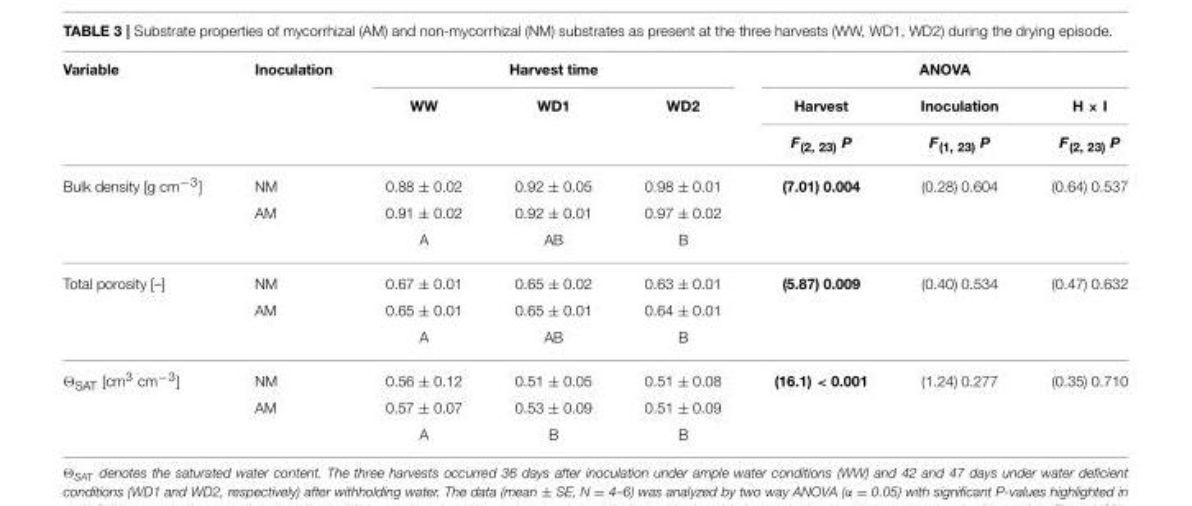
<table><thead><tr><td rowspan="3">Variable</td><td rowspan="3">Inoculation</td><td colspan="3">Harvest time</td><td colspan="3">ANOVA</td></tr><tr><td rowspan="2">WW</td><td rowspan="2">WD1</td><td rowspan="2">WD2</td><td rowspan="2">Harvest F<sub>(2, 23)</sub> P</td><td rowspan="2">Inoculation F<sub>(1, 23)</sub> P</td><td rowspan="2">H × I F<sub>(2, 23)</sub> P</td></tr><tr></tr></thead><tbody><tr><td rowspan="3">Bulk density [g cm<sup>−3</sup>]</td><td>NM</td><td>0.88 ± 0.02</td><td>0.92 ± 0.05</td><td>0.98 ± 0.01</td><td>(7.01) 0.004</td><td>(0.28) 0.604</td><td>(0.64) 0.537</td></tr><tr><td>AM</td><td>0.91 ± 0.02</td><td>0.92 ± 0.01</td><td>0.97 ± 0.02</td><td></td><td></td><td></td></tr><tr><td></td><td>A</td><td>AB</td><td>B</td><td></td><td></td><td></td></tr><tr><td rowspan="3">Total porosity [–]</td><td>NM</td><td>0.67 ± 0.01</td><td>0.65 ± 0.02</td><td>0.63 ± 0.01</td><td>(5.87) 0.009</td><td>(0.40) 0.534</td><td>(0.47) 0.632</td></tr><tr><td>AM</td><td>0.65 ± 0.01</td><td>0.65 ± 0.01</td><td>0.64 ± 0.01</td><td></td><td></td><td></td></tr><tr><td></td><td>A</td><td>AB</td><td>B</td><td></td><td></td><td></td></tr><tr><td rowspan="3">Θ<sub>SAT</sub> [cm<sup>3</sup> cm<sup>−3</sup>]</td><td>NM</td><td>0.56 ± 0.12</td><td>0.51 ± 0.05</td><td>0.51 ± 0.08</td><td>(16.1) &lt; 0.001</td><td>(1.24) 0.277</td><td>(0.35) 0.710</td></tr><tr><td>AM</td><td>0.57 ± 0.07</td><td>0.53 ± 0.09</td><td>0.51 ± 0.09</td><td></td><td></td><td></td></tr><tr><td></td><td>A</td><td>B</td><td>B</td><td></td><td></td><td></td></tr></tbody></table>